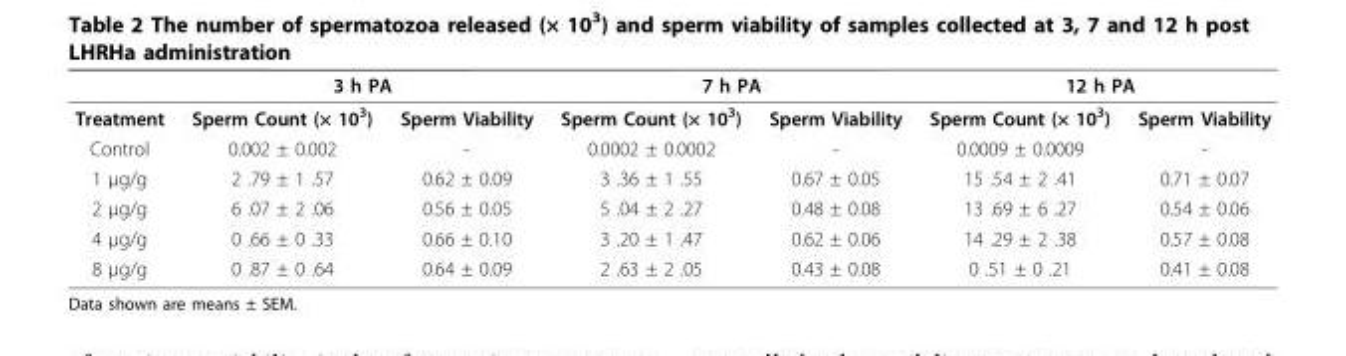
<table><thead><tr><td rowspan="2">Treatment</td><td colspan="2">3 h PA</td><td colspan="2">7 h PA</td><td colspan="2">12 h PA</td></tr><tr><td>Sperm Count (× 10<sup>3</sup>)</td><td>Sperm Viability</td><td>Sperm Count (× 10<sup>3</sup>)</td><td>Sperm Viability</td><td>Sperm Count (× 10<sup>3</sup>)</td><td>Sperm Viability</td></tr></thead><tbody><tr><td>Control</td><td>0.002 ± 0.002</td><td>-</td><td>0.0002 ± 0.0002</td><td>-</td><td>0.0009 ± 0.0009</td><td>-</td></tr><tr><td>1 μg/g</td><td>2 .79 ± 1 .57</td><td>0.62 ± 0.09</td><td>3 .36 ± 1 .55</td><td>0.67 ± 0.05</td><td>15 .54 ± 2 .41</td><td>0.71 ± 0.07</td></tr><tr><td>2 μg/g</td><td>6 .07 ± 2 .06</td><td>0.56 ± 0.05</td><td>5 .04 ± 2 .27</td><td>0.48 ± 0.08</td><td>13 .69 ± 6 .27</td><td>0.54 ± 0.06</td></tr><tr><td>4 μg/g</td><td>0 .66 ± 0 .33</td><td>0.66 ± 0.10</td><td>3 .20 ± 1 .47</td><td>0.62 ± 0.06</td><td>14 .29 ± 2 .38</td><td>0.57 ± 0.08</td></tr><tr><td>8 μg/g</td><td>0 .87 ± 0 .64</td><td>0.64 ± 0.09</td><td>2 .63 ± 2 .05</td><td>0.43 ± 0.08</td><td>0 .51 ± 0 .21</td><td>0.41 ± 0.08</td></tr></tbody></table>